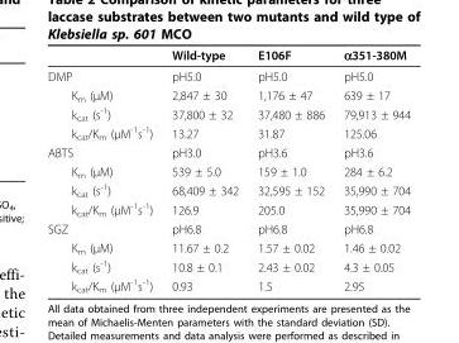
<table><thead><tr><td></td><td>Wild-type</td><td>E106F</td><td>α351-380M</td></tr></thead><tbody><tr><td>DMP</td><td>pH5.0</td><td>pH5.0</td><td>pH5.0</td></tr><tr><td>K<sub>m</sub> (μM)</td><td>2,847 ± 30</td><td>1,176 ± 47</td><td>639 ± 17</td></tr><tr><td>k<sub>cat</sub> (s<sup>-1</sup>)</td><td>37,800 ± 32</td><td>37,480 ± 886</td><td>79,913 ± 944</td></tr><tr><td>k<sub>cat</sub>/K<sub>m</sub> (μM<sup>-1</sup>s<sup>-1</sup>)</td><td>13.27</td><td>31.87</td><td>125.06</td></tr><tr><td>ABTS</td><td>pH3.0</td><td>pH3.6</td><td>pH3.6</td></tr><tr><td>K<sub>m</sub> (μM)</td><td>539 ± 5.0</td><td>159 ± 1.0</td><td>284 ± 6.2</td></tr><tr><td>k<sub>cat</sub> (s<sup>-1</sup>)</td><td>68,409 ± 342</td><td>32,595 ± 152</td><td>35,990 ± 704</td></tr><tr><td>k<sub>cat</sub>/K<sub>m</sub> (μM<sup>-1</sup>s<sup>-1</sup>)</td><td>126.9</td><td>205.0</td><td>35,990 ± 704</td></tr><tr><td>SGZ</td><td>pH6.8</td><td>pH6.8</td><td>pH6.8</td></tr><tr><td>K<sub>m</sub> (μM)</td><td>11.67 ± 0.2</td><td>1.57 ± 0.02</td><td>1.46 ± 0.02</td></tr><tr><td>k<sub>cat</sub> (s<sup>-1</sup>)</td><td>10.8 ± 0.1</td><td>2.43 ± 0.02</td><td>4.3 ± 0.05</td></tr><tr><td>k<sub>cat</sub>/K<sub>m</sub> (μM<sup>-1</sup>s<sup>-1</sup>)</td><td>0.93</td><td>1.5</td><td>2.95</td></tr></tbody></table>